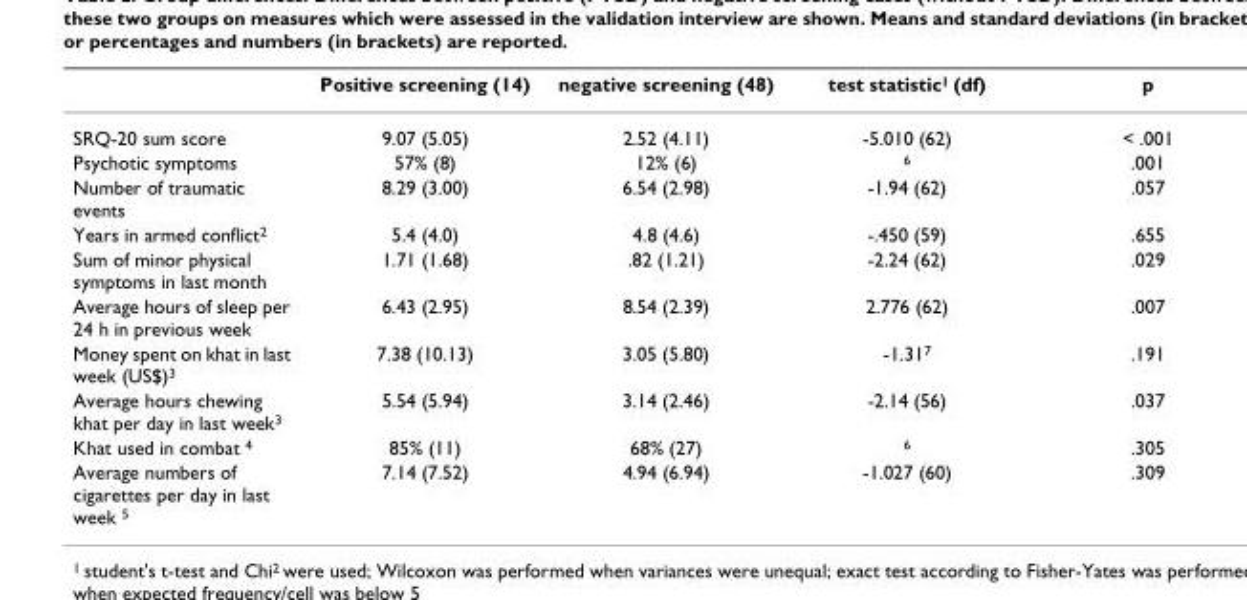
<table><thead><tr><td></td><td>Positive screening (14)</td><td>negative screening (48)</td><td>test statistic<sup>1</sup> (df)</td><td>p</td></tr></thead><tbody><tr><td>SRQ-20 sum score</td><td>9.07 (5.05)</td><td>2.52 (4.11)</td><td>-5.010 (62)</td><td>&lt; .001</td></tr><tr><td>Psychotic symptoms</td><td>57% (8)</td><td>12% (6)</td><td><sup>6</sup></td><td>.001</td></tr><tr><td>Number of traumatic events</td><td>8.29 (3.00)</td><td>6.54 (2.98)</td><td>-1.94 (62)</td><td>.057</td></tr><tr><td>Years in armed conflict<sup>2</sup></td><td>5.4 (4.0)</td><td>4.8 (4.6)</td><td>-.450 (59)</td><td>.655</td></tr><tr><td>Sum of minor physical symptoms in last month</td><td>1.71 (1.68)</td><td>.82 (1.21)</td><td>-2.24 (62)</td><td>.029</td></tr><tr><td>Average hours of sleep per 24 h in previous week</td><td>6.43 (2.95)</td><td>8.54 (2.39)</td><td>2.776 (62)</td><td>.007</td></tr><tr><td>Money spent on khat in last week (US$)<sup>3</sup></td><td>7.38 (10.13)</td><td>3.05 (5.80)</td><td>-1.31<sup>7</sup></td><td>.191</td></tr><tr><td>Average hours chewing khat per day in last week<sup>3</sup></td><td>5.54 (5.94)</td><td>3.14 (2.46)</td><td>-2.14 (56)</td><td>.037</td></tr><tr><td>Khat used in combat <sup>4</sup></td><td>85% (11)</td><td>68% (27)</td><td><sup>6</sup></td><td>.305</td></tr><tr><td>Average numbers of cigarettes per day in last week <sup>5</sup></td><td>7.14 (7.52)</td><td>4.94 (6.94)</td><td>-1.027 (60)</td><td>.309</td></tr></tbody></table>